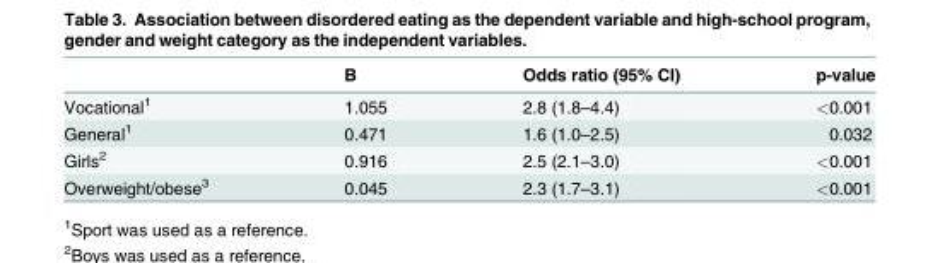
<table><thead><tr><td></td><td>B</td><td>Odds ratio (95% CI)</td><td>p-value</td></tr></thead><tbody><tr><td>Vocational<sup>1</sup></td><td>1.055</td><td>2.8 (1.8–4.4)</td><td>&lt;0.001</td></tr><tr><td>General<sup>1</sup></td><td>0.471</td><td>1.6 (1.0–2.5)</td><td>0.032</td></tr><tr><td>Girls<sup>2</sup></td><td>0.916</td><td>2.5 (2.1–3.0)</td><td>&lt;0.001</td></tr><tr><td>Overweight/obese<sup>3</sup></td><td>0.045</td><td>2.3 (1.7–3.1)</td><td>&lt;0.001</td></tr></tbody></table>